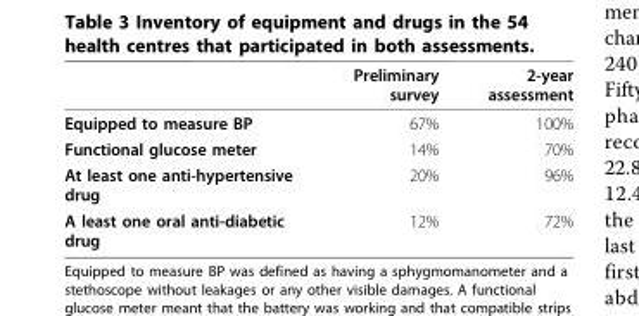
<table><thead><tr><td></td><td>Preliminary survey</td><td>2-year assessment</td></tr></thead><tbody><tr><td>Equipped to measure BP</td><td>67%</td><td>100%</td></tr><tr><td>Functional glucose meter</td><td>14%</td><td>70%</td></tr><tr><td>At least one anti-hypertensive drug</td><td>20%</td><td>96%</td></tr><tr><td>A least one oral anti-diabetic drug</td><td>12%</td><td>72%</td></tr></tbody></table>